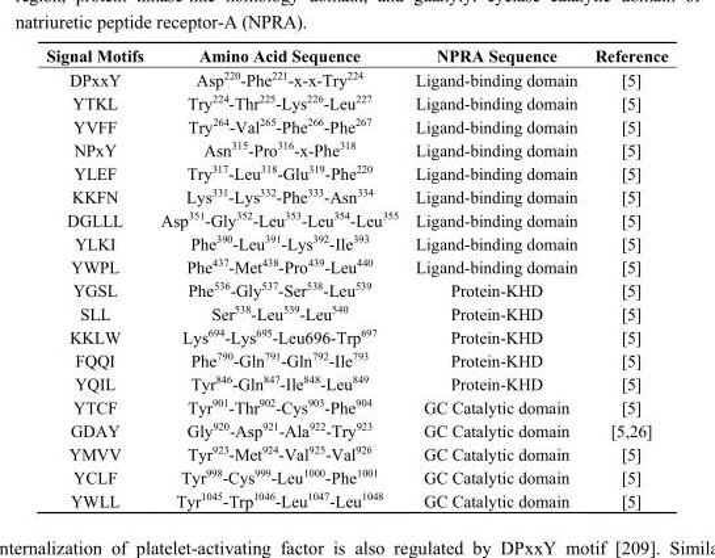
<table><thead><tr><td>Signal Motifs</td><td>Amino Acid Sequence</td><td>NPRA Sequence</td><td>Reference</td></tr></thead><tbody><tr><td>DPxxY</td><td>Asp<sup>220</sup>-Phe<sup>221</sup>-x-x-Try<sup>224</sup></td><td>Ligand-binding domain</td><td>[5]</td></tr><tr><td>YTKL</td><td>Try<sup>224</sup>-Thr<sup>225</sup>-Lys<sup>226</sup>-Leu<sup>227</sup></td><td>Ligand-binding domain</td><td>[5]</td></tr><tr><td>YVFF</td><td>Try<sup>264</sup>-Val<sup>265</sup>-Phe<sup>266</sup>-Phe<sup>267</sup></td><td>Ligand-binding domain</td><td>[5]</td></tr><tr><td>NPxY</td><td>Asn<sup>315</sup>-Pro<sup>316</sup>-x-Phe<sup>318</sup></td><td>Ligand-binding domain</td><td>[5]</td></tr><tr><td>YLEF</td><td>Try<sup>317</sup>-Leu<sup>318</sup>-Glu<sup>319</sup>-Phe<sup>220</sup></td><td>Ligand-binding domain</td><td>[5]</td></tr><tr><td>KKFN</td><td>Lys<sup>331</sup>-Lys<sup>332</sup>-Phe<sup>333</sup>-Asn<sup>334</sup></td><td>Ligand-binding domain</td><td>[5]</td></tr><tr><td>DGLLL</td><td>Asp<sup>351</sup>-Gly<sup>352</sup>-Leu<sup>353</sup>-Leu<sup>354</sup>-Leu<sup>355</sup></td><td>Ligand-binding domain</td><td>[5]</td></tr><tr><td>YLKI</td><td>Phe<sup>390</sup>-Leu<sup>391</sup>-Lys<sup>392</sup>-Ile<sup>393</sup></td><td>Ligand-binding domain</td><td>[5]</td></tr><tr><td>YWPL</td><td>Phe<sup>437</sup>-Met<sup>438</sup>-Pro<sup>439</sup>-Leu<sup>440</sup></td><td>Ligand-binding domain</td><td>[5]</td></tr><tr><td>YGSL</td><td>Phe<sup>536</sup>-Gly<sup>537</sup>-Ser<sup>538</sup>-Leu<sup>539</sup></td><td>Protein-KHD</td><td>[5]</td></tr><tr><td>SLL</td><td>Ser<sup>538</sup>-Leu<sup>539</sup>-Leu<sup>540</sup></td><td>Protein-KHD</td><td>[5]</td></tr><tr><td>KKLW</td><td>Lys<sup>694</sup>-Lys<sup>695</sup>-Leu696-Trp<sup>697</sup></td><td>Protein-KHD</td><td>[5]</td></tr><tr><td>FQQI</td><td>Phe<sup>790</sup>-Gln<sup>791</sup>-Gln<sup>792</sup>-Ile<sup>793</sup></td><td>Protein-KHD</td><td>[5]</td></tr><tr><td>YQIL</td><td>Tyr<sup>846</sup>-Gln<sup>847</sup>-Ile<sup>848</sup>-Leu<sup>849</sup></td><td>Protein-KHD</td><td>[5]</td></tr><tr><td>YTCF</td><td>Tyr<sup>901</sup>-Thr<sup>902</sup>-Cys<sup>903</sup>-Phe<sup>904</sup></td><td>GC Catalytic domain</td><td>[5]</td></tr><tr><td>GDAY</td><td>Gly<sup>920</sup>-Asp<sup>921</sup>-Ala<sup>922</sup>-Try<sup>923</sup></td><td>GC Catalytic domain</td><td>[5,26]</td></tr><tr><td>YMVV</td><td>Tyr<sup>923</sup>-Met<sup>924</sup>-Val<sup>925</sup>-Val<sup>926</sup></td><td>GC Catalytic domain</td><td>[5]</td></tr><tr><td>YCLF</td><td>Tyr<sup>998</sup>-Cys<sup>999</sup>-Leu<sup>1000</sup>-Phe<sup>1001</sup></td><td>GC Catalytic domain</td><td>[5]</td></tr><tr><td>YWLL</td><td>Tyr<sup>1045</sup>-Trp<sup>1046</sup>-Leu<sup>1047</sup>-Leu<sup>1048</sup></td><td>GC Catalytic domain</td><td>[5]</td></tr></tbody></table>